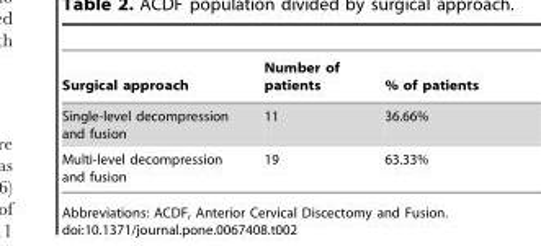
<table><thead><tr><td>Surgical approach</td><td>Number of patients</td><td>% of patients</td></tr></thead><tbody><tr><td>Single-level decompression and fusion</td><td>11</td><td>36.66%</td></tr><tr><td>Multi-level decompression and fusion</td><td>19</td><td>63.33%</td></tr></tbody></table>